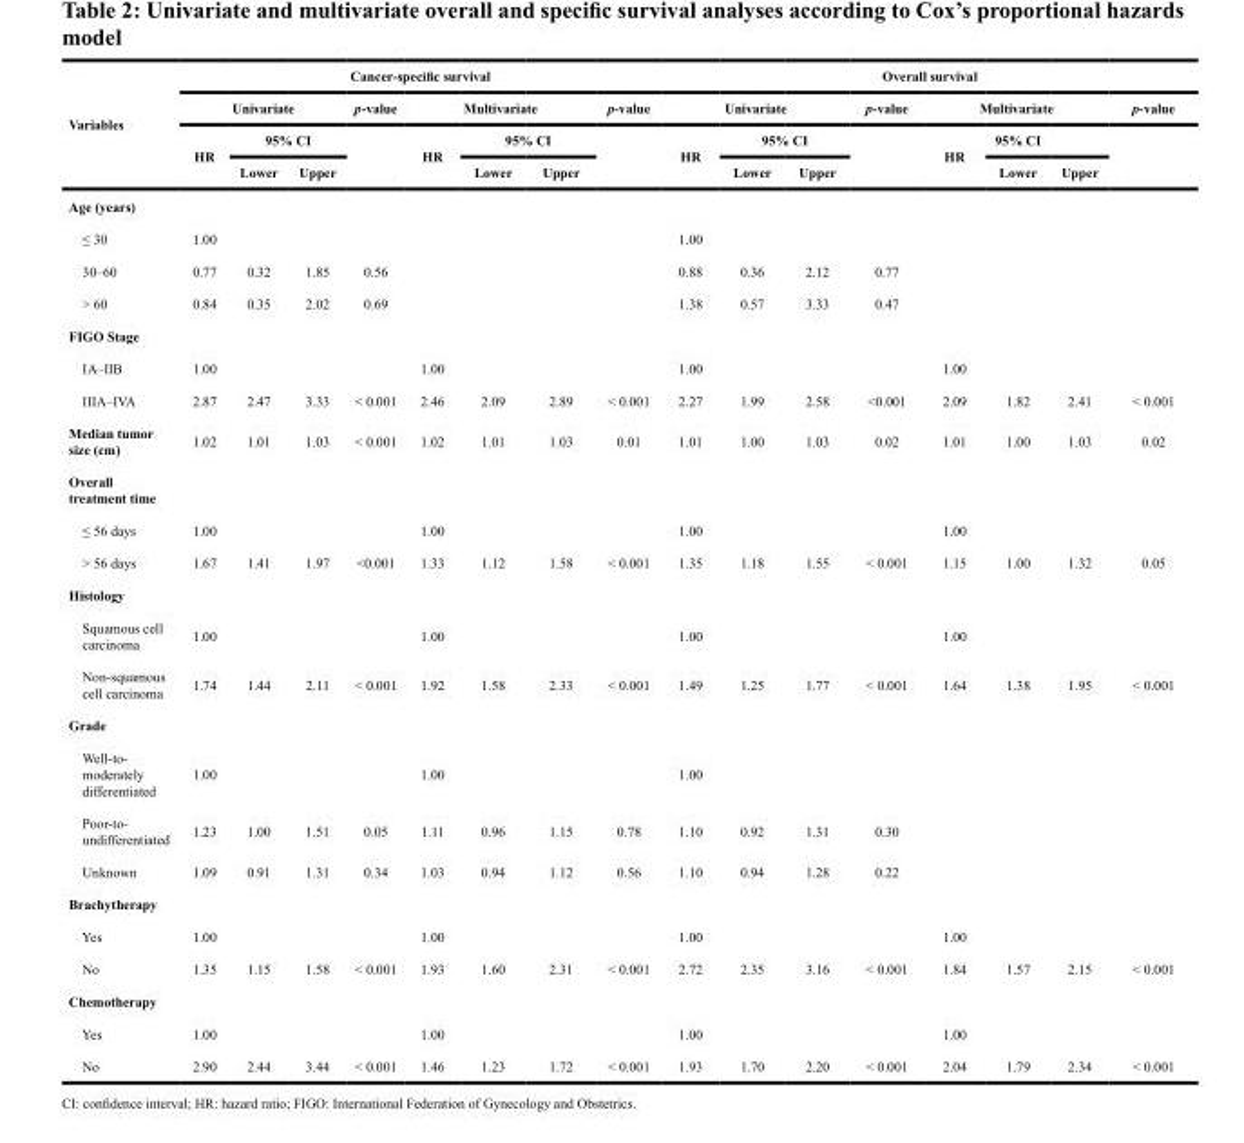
<table><thead><tr><td rowspan="4">Variables</td><td colspan="8">Cancer-specific survival</td><td colspan="8">Overall survival</td></tr><tr><td colspan="3">Univariate</td><td rowspan="3">p-value</td><td colspan="3">Multivariate</td><td rowspan="3">p-value</td><td colspan="3">Univariate</td><td rowspan="3">p-value</td><td colspan="3">Multivariate</td><td rowspan="3">p-value</td></tr><tr><td rowspan="2">HR</td><td colspan="2">95% CI</td><td rowspan="2">HR</td><td colspan="2">95% CI</td><td rowspan="2">HR</td><td colspan="2">95% CI</td><td rowspan="2">HR</td><td rowspan="2">95% CI Lower</td><td rowspan="2">Upper</td></tr><tr><td>Lower</td><td>Upper</td><td>Lower</td><td>Upper</td><td>Lower</td><td>Upper</td></tr></thead><tbody><tr><td colspan="17">Age (years)</td></tr><tr><td>≤ 30</td><td>1.00</td><td></td><td></td><td></td><td></td><td></td><td></td><td></td><td>1.00</td><td></td><td></td><td></td><td></td><td></td><td></td><td></td></tr><tr><td>30–60</td><td>0.77</td><td>0.32</td><td>1.85</td><td>0.56</td><td></td><td></td><td></td><td></td><td>0.88</td><td>0.36</td><td>2.12</td><td>0.77</td><td></td><td></td><td></td><td></td></tr><tr><td>&gt; 60</td><td>0.84</td><td>0.35</td><td>2.02</td><td>0.69</td><td></td><td></td><td></td><td></td><td>1.38</td><td>0.57</td><td>3.33</td><td>0.47</td><td></td><td></td><td></td><td></td></tr><tr><td colspan="17">FIGO Stage</td></tr><tr><td>IA–IIB</td><td>1.00</td><td></td><td></td><td></td><td>1.00</td><td></td><td></td><td></td><td>1.00</td><td></td><td></td><td></td><td>1.00</td><td></td><td></td><td></td></tr><tr><td>IIIA–IVA</td><td>2.87</td><td>2.47</td><td>3.33</td><td>&lt; 0.001</td><td>2.46</td><td>2.09</td><td>2.89</td><td>&lt; 0.001</td><td>2.27</td><td>1.99</td><td>2.58</td><td>&lt;0.001</td><td>2.09</td><td>1.82</td><td>2.41</td><td>&lt; 0.001</td></tr><tr><td>Median tumor size (cm)</td><td>1.02</td><td>1.01</td><td>1.03</td><td>&lt; 0.001</td><td>1.02</td><td>1.01</td><td>1.03</td><td>0.01</td><td>1.01</td><td>1.00</td><td>1.03</td><td>0.02</td><td>1.01</td><td>1.00</td><td>1.03</td><td>0.02</td></tr><tr><td colspan="17">Overall treatment time</td></tr><tr><td>≤ 56 days</td><td>1.00</td><td></td><td></td><td></td><td>1.00</td><td></td><td></td><td></td><td>1.00</td><td></td><td></td><td></td><td>1.00</td><td></td><td></td><td></td></tr><tr><td>&gt; 56 days</td><td>1.67</td><td>1.41</td><td>1.97</td><td>&lt;0.001</td><td>1.33</td><td>1.12</td><td>1.58</td><td>&lt; 0.001</td><td>1.35</td><td>1.18</td><td>1.55</td><td>&lt; 0.001</td><td>1.15</td><td>1.00</td><td>1.32</td><td>0.05</td></tr><tr><td colspan="17">Histology</td></tr><tr><td>Squamous cell carcinoma</td><td>1.00</td><td></td><td></td><td></td><td>1.00</td><td></td><td></td><td></td><td>1.00</td><td></td><td></td><td></td><td>1.00</td><td></td><td></td><td></td></tr><tr><td>Non-squamous cell carcinoma</td><td>1.74</td><td>1.44</td><td>2.11</td><td>&lt; 0.001</td><td>1.92</td><td>1.58</td><td>2.33</td><td>&lt; 0.001</td><td>1.49</td><td>1.25</td><td>1.77</td><td>&lt; 0.001</td><td>1.64</td><td>1.38</td><td>1.95</td><td>&lt; 0.001</td></tr><tr><td colspan="17">Grade</td></tr><tr><td>Well-to- moderately differentiated</td><td>1.00</td><td></td><td></td><td></td><td>1.00</td><td></td><td></td><td></td><td>1.00</td><td></td><td></td><td></td><td></td><td></td><td></td><td></td></tr><tr><td>Poor-to- undifferentiated</td><td>1.23</td><td>1.00</td><td>1.51</td><td>0.05</td><td>1.11</td><td>0.96</td><td>1.15</td><td>0.78</td><td>1.10</td><td>0.92</td><td>1.31</td><td>0.30</td><td></td><td></td><td></td><td></td></tr><tr><td>Unknown</td><td>1.09</td><td>0.91</td><td>1.31</td><td>0.34</td><td>1.03</td><td>0.94</td><td>1.12</td><td>0.56</td><td>1.10</td><td>0.94</td><td>1.28</td><td>0.22</td><td></td><td></td><td></td><td></td></tr><tr><td colspan="17">Brachytherapy</td></tr><tr><td>Yes</td><td>1.00</td><td></td><td></td><td></td><td>1.00</td><td></td><td></td><td></td><td>1.00</td><td></td><td></td><td></td><td>1.00</td><td></td><td></td><td></td></tr><tr><td>No</td><td>1.35</td><td>1.15</td><td>1.58</td><td>&lt; 0.001</td><td>1.93</td><td>1.60</td><td>2.31</td><td>&lt; 0.001</td><td>2.72</td><td>2.35</td><td>3.16</td><td>&lt; 0.001</td><td>1.84</td><td>1.57</td><td>2.15</td><td>&lt; 0.001</td></tr><tr><td colspan="17">Chemotherapy</td></tr><tr><td>Yes</td><td>1.00</td><td></td><td></td><td></td><td>1.00</td><td></td><td></td><td></td><td>1.00</td><td></td><td></td><td></td><td>1.00</td><td></td><td></td><td></td></tr><tr><td>No</td><td>2.90</td><td>2.44</td><td>3.44</td><td>&lt; 0.001</td><td>1.46</td><td>1.23</td><td>1.72</td><td>&lt; 0.001</td><td>1.93</td><td>1.70</td><td>2.20</td><td>&lt; 0.001</td><td>2.04</td><td>1.79</td><td>2.34</td><td>&lt; 0.001</td></tr></tbody></table>